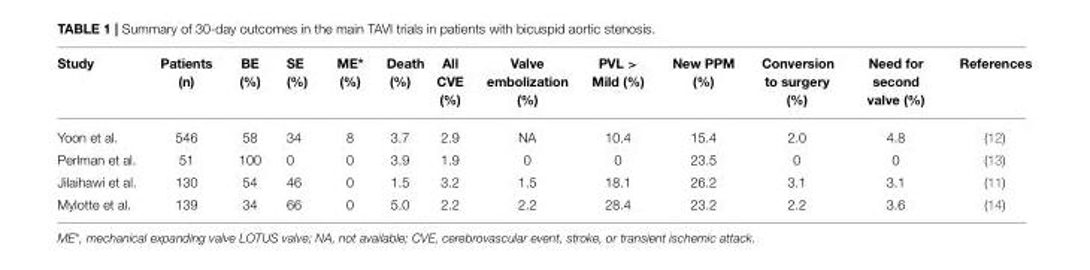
<table><thead><tr><td>Study</td><td>Patients (n)</td><td>BE (%)</td><td>SE (%)</td><td>ME* (%)</td><td>Death (%)</td><td>All CVE (%)</td><td>Valve embolization (%)</td><td>PVL &gt; Mild (%)</td><td>New PPM (%)</td><td>Conversion to surgery (%)</td><td>Need for second valve (%)</td><td>References</td></tr></thead><tbody><tr><td>Yoon et al.</td><td>546</td><td>58</td><td>34</td><td>8</td><td>3.7</td><td>2.9</td><td>NA</td><td>10.4</td><td>15.4</td><td>2.0</td><td>4.8</td><td>(12)</td></tr><tr><td>Perlman et al.</td><td>51</td><td>100</td><td>0</td><td>0</td><td>3.9</td><td>1.9</td><td>0</td><td>0</td><td>23.5</td><td>0</td><td>0</td><td>(13)</td></tr><tr><td>Jilaihawi et al.</td><td>130</td><td>54</td><td>46</td><td>0</td><td>1.5</td><td>3.2</td><td>1.5</td><td>18.1</td><td>26.2</td><td>3.1</td><td>3.1</td><td>(11)</td></tr><tr><td>Mylotte et al.</td><td>139</td><td>34</td><td>66</td><td>0</td><td>5.0</td><td>2.2</td><td>2.2</td><td>28.4</td><td>23.2</td><td>2.2</td><td>3.6</td><td>(14)</td></tr></tbody></table>